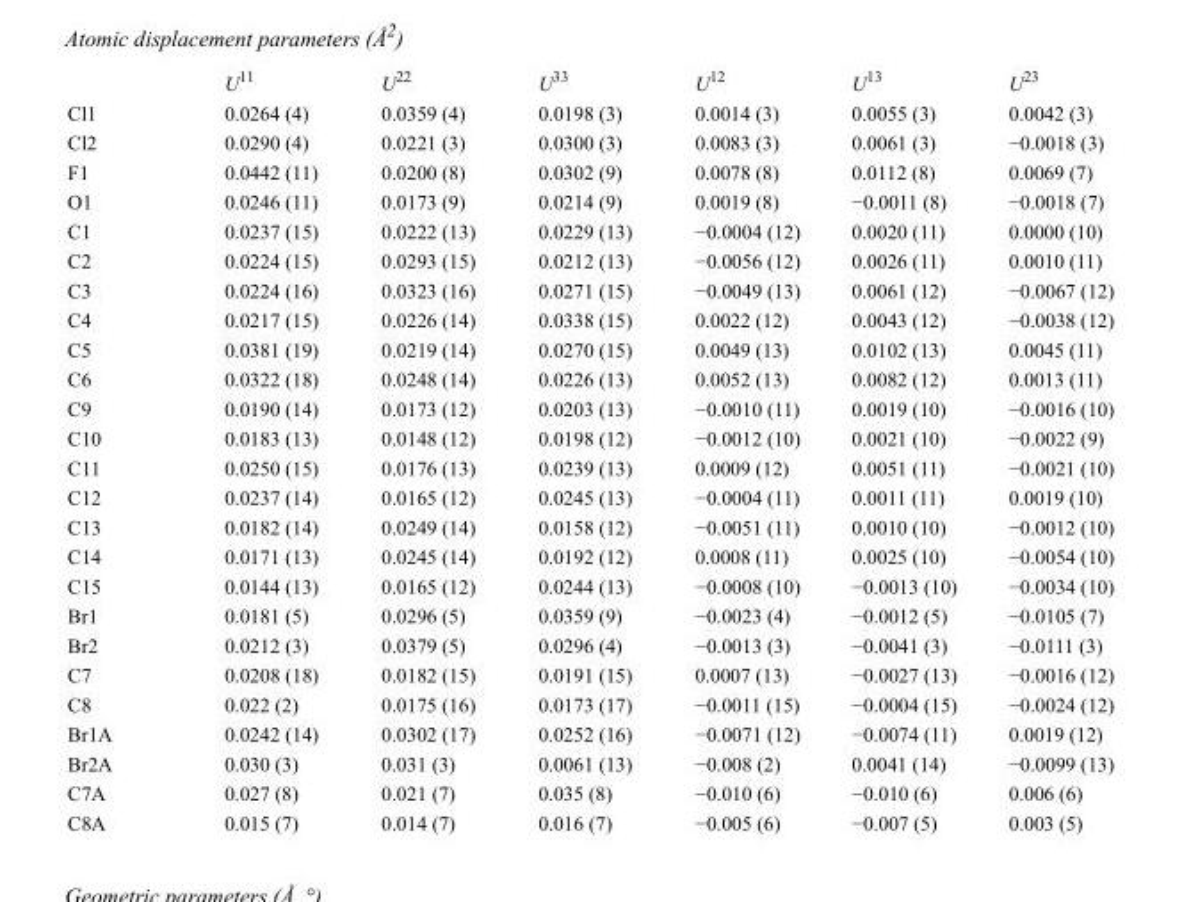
<table><thead><tr><td></td><td>U<sup>11</sup></td><td>U<sup>22</sup></td><td>U<sup>33</sup></td><td>U<sup>12</sup></td><td>U<sup>13</sup></td><td>U<sup>23</sup></td></tr></thead><tbody><tr><td>Cl1</td><td>0.0264 (4)</td><td>0.0359 (4)</td><td>0.0198 (3)</td><td>0.0014 (3)</td><td>0.0055 (3)</td><td>0.0042 (3)</td></tr><tr><td>Cl2</td><td>0.0290 (4)</td><td>0.0221 (3)</td><td>0.0300 (3)</td><td>0.0083 (3)</td><td>0.0061 (3)</td><td>−0.0018 (3)</td></tr><tr><td>F1</td><td>0.0442 (11)</td><td>0.0200 (8)</td><td>0.0302 (9)</td><td>0.0078 (8)</td><td>0.0112 (8)</td><td>0.0069 (7)</td></tr><tr><td>O1</td><td>0.0246 (11)</td><td>0.0173 (9)</td><td>0.0214 (9)</td><td>0.0019 (8)</td><td>−0.0011 (8)</td><td>−0.0018 (7)</td></tr><tr><td>C1</td><td>0.0237 (15)</td><td>0.0222 (13)</td><td>0.0229 (13)</td><td>−0.0004 (12)</td><td>0.0020 (11)</td><td>0.0000 (10)</td></tr><tr><td>C2</td><td>0.0224 (15)</td><td>0.0293 (15)</td><td>0.0212 (13)</td><td>−0.0056 (12)</td><td>0.0026 (11)</td><td>0.0010 (11)</td></tr><tr><td>C3</td><td>0.0224 (16)</td><td>0.0323 (16)</td><td>0.0271 (15)</td><td>−0.0049 (13)</td><td>0.0061 (12)</td><td>−0.0067 (12)</td></tr><tr><td>C4</td><td>0.0217 (15)</td><td>0.0226 (14)</td><td>0.0338 (15)</td><td>0.0022 (12)</td><td>0.0043 (12)</td><td>−0.0038 (12)</td></tr><tr><td>C5</td><td>0.0381 (19)</td><td>0.0219 (14)</td><td>0.0270 (15)</td><td>0.0049 (13)</td><td>0.0102 (13)</td><td>0.0045 (11)</td></tr><tr><td>C6</td><td>0.0322 (18)</td><td>0.0248 (14)</td><td>0.0226 (13)</td><td>0.0052 (13)</td><td>0.0082 (12)</td><td>0.0013 (11)</td></tr><tr><td>C9</td><td>0.0190 (14)</td><td>0.0173 (12)</td><td>0.0203 (13)</td><td>−0.0010 (11)</td><td>0.0019 (10)</td><td>−0.0016 (10)</td></tr><tr><td>C10</td><td>0.0183 (13)</td><td>0.0148 (12)</td><td>0.0198 (12)</td><td>−0.0012 (10)</td><td>0.0021 (10)</td><td>−0.0022 (9)</td></tr><tr><td>C11</td><td>0.0250 (15)</td><td>0.0176 (13)</td><td>0.0239 (13)</td><td>0.0009 (12)</td><td>0.0051 (11)</td><td>−0.0021 (10)</td></tr><tr><td>C12</td><td>0.0237 (14)</td><td>0.0165 (12)</td><td>0.0245 (13)</td><td>−0.0004 (11)</td><td>0.0011 (11)</td><td>0.0019 (10)</td></tr><tr><td>C13</td><td>0.0182 (14)</td><td>0.0249 (14)</td><td>0.0158 (12)</td><td>−0.0051 (11)</td><td>0.0010 (10)</td><td>−0.0012 (10)</td></tr><tr><td>C14</td><td>0.0171 (13)</td><td>0.0245 (14)</td><td>0.0192 (12)</td><td>0.0008 (11)</td><td>0.0025 (10)</td><td>−0.0054 (10)</td></tr><tr><td>C15</td><td>0.0144 (13)</td><td>0.0165 (12)</td><td>0.0244 (13)</td><td>−0.0008 (10)</td><td>−0.0013 (10)</td><td>−0.0034 (10)</td></tr><tr><td>Br1</td><td>0.0181 (5)</td><td>0.0296 (5)</td><td>0.0359 (9)</td><td>−0.0023 (4)</td><td>−0.0012 (5)</td><td>−0.0105 (7)</td></tr><tr><td>Br2</td><td>0.0212 (3)</td><td>0.0379 (5)</td><td>0.0296 (4)</td><td>−0.0013 (3)</td><td>−0.0041 (3)</td><td>−0.0111 (3)</td></tr><tr><td>C7</td><td>0.0208 (18)</td><td>0.0182 (15)</td><td>0.0191 (15)</td><td>0.0007 (13)</td><td>−0.0027 (13)</td><td>−0.0016 (12)</td></tr><tr><td>C8</td><td>0.022 (2)</td><td>0.0175 (16)</td><td>0.0173 (17)</td><td>−0.0011 (15)</td><td>−0.0004 (15)</td><td>−0.0024 (12)</td></tr><tr><td>Br1A</td><td>0.0242 (14)</td><td>0.0302 (17)</td><td>0.0252 (16)</td><td>−0.0071 (12)</td><td>−0.0074 (11)</td><td>0.0019 (12)</td></tr><tr><td>Br2A</td><td>0.030 (3)</td><td>0.031 (3)</td><td>0.0061 (13)</td><td>−0.008 (2)</td><td>0.0041 (14)</td><td>−0.0099 (13)</td></tr><tr><td>C7A</td><td>0.027 (8)</td><td>0.021 (7)</td><td>0.035 (8)</td><td>−0.010 (6)</td><td>−0.010 (6)</td><td>0.006 (6)</td></tr><tr><td>C8A</td><td>0.015 (7)</td><td>0.014 (7)</td><td>0.016 (7)</td><td>−0.005 (6)</td><td>−0.007 (5)</td><td>0.003 (5)</td></tr></tbody></table>